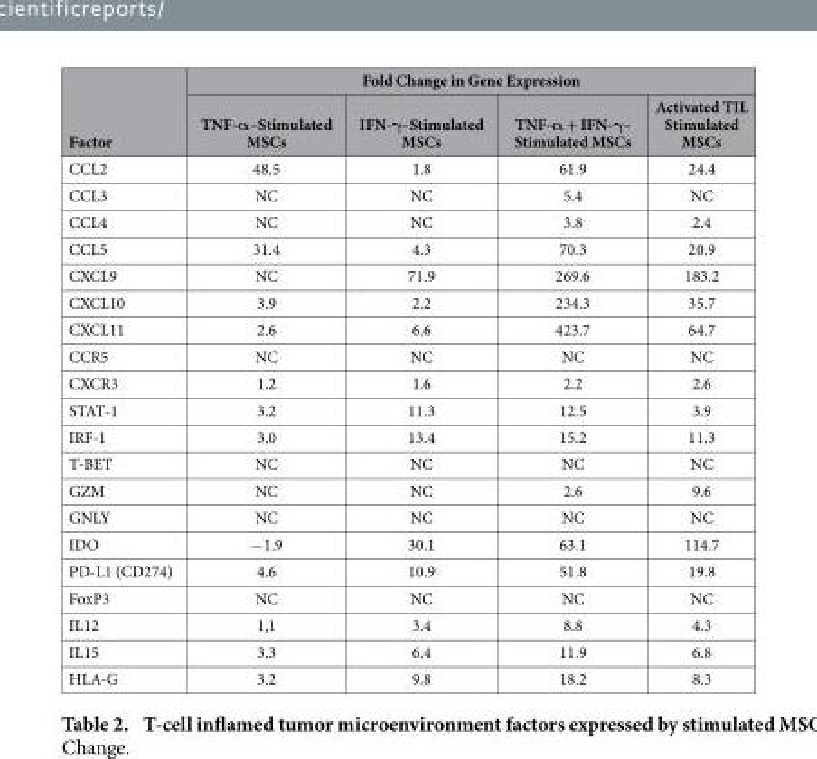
<table><thead><tr><td rowspan="2">Factor</td><td colspan="4">Fold Change in Gene Expression</td></tr><tr><td>TNF-α–Stimulated MSCs</td><td>IFN-γ–Stimulated MSCs</td><td>TNF-α + IFN-γ– Stimulated MSCs</td><td>Activated TIL Stimulated MSCs</td></tr></thead><tbody><tr><td>CCL2</td><td>48.5</td><td>1.8</td><td>61.9</td><td>24.4</td></tr><tr><td>CCL3</td><td>NC</td><td>NC</td><td>5.4</td><td>NC</td></tr><tr><td>CCL4</td><td>NC</td><td>NC</td><td>3.8</td><td>2.4</td></tr><tr><td>CCL5</td><td>31.4</td><td>4.3</td><td>70.3</td><td>20.9</td></tr><tr><td>CXCL9</td><td>NC</td><td>71.9</td><td>269.6</td><td>183.2</td></tr><tr><td>CXCL10</td><td>3.9</td><td>2.2</td><td>234.3</td><td>35.7</td></tr><tr><td>CXCL11</td><td>2.6</td><td>6.6</td><td>423.7</td><td>64.7</td></tr><tr><td>CCR5</td><td>NC</td><td>NC</td><td>NC</td><td>NC</td></tr><tr><td>CXCR3</td><td>1.2</td><td>1.6</td><td>2.2</td><td>2.6</td></tr><tr><td>STAT-1</td><td>3.2</td><td>11.3</td><td>12.5</td><td>3.9</td></tr><tr><td>IRF-1</td><td>3.0</td><td>13.4</td><td>15.2</td><td>11.3</td></tr><tr><td>T-BET</td><td>NC</td><td>NC</td><td>NC</td><td>NC</td></tr><tr><td>GZM</td><td>NC</td><td>NC</td><td>2.6</td><td>9.6</td></tr><tr><td>GNLY</td><td>NC</td><td>NC</td><td>NC</td><td>NC</td></tr><tr><td>IDO</td><td>− 1.9</td><td>30.1</td><td>63.1</td><td>114.7</td></tr><tr><td>PD-L1 (CD274)</td><td>4.6</td><td>10.9</td><td>51.8</td><td>19.8</td></tr><tr><td>FoxP3</td><td>NC</td><td>NC</td><td>NC</td><td>NC</td></tr><tr><td>IL12</td><td>1,1</td><td>3.4</td><td>8.8</td><td>4.3</td></tr><tr><td>IL15</td><td>3.3</td><td>6.4</td><td>11.9</td><td>6.8</td></tr><tr><td>HLA-G</td><td>3.2</td><td>9.8</td><td>18.2</td><td>8.3</td></tr></tbody></table>